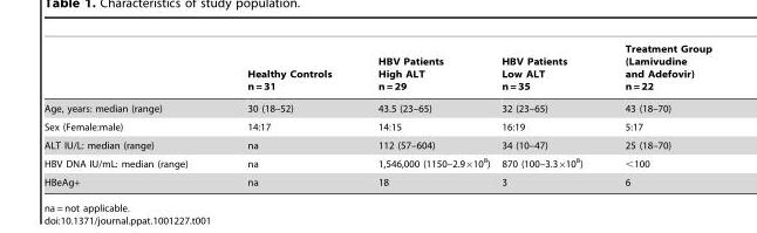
<table><thead><tr><td></td><td>Healthy Controls n = 31</td><td>HBV Patients High ALT n = 29</td><td>HBV Patients Low ALT n = 35</td><td>Treatment Group (Lamivudine and Adefovir) n = 22</td></tr></thead><tbody><tr><td>Age, years: median (range)</td><td>30 (18–52)</td><td>43.5 (23–65)</td><td>32 (23–65)</td><td>43 (18–70)</td></tr><tr><td>Sex (Female:male)</td><td>14:17</td><td>14:15</td><td>16:19</td><td>5:17</td></tr><tr><td>ALT IU/L: median (range)</td><td>na</td><td>112 (57–604)</td><td>34 (10–47)</td><td>25 (18–70)</td></tr><tr><td>HBV DNA IU/mL: median (range)</td><td>na</td><td>1,546,000 (1150–2.9×10<sup>8</sup>)</td><td>870 (100–3.3×10<sup>8</sup>)</td><td>&lt;100</td></tr><tr><td>HBeAg+</td><td>na</td><td>18</td><td>3</td><td>6</td></tr></tbody></table>